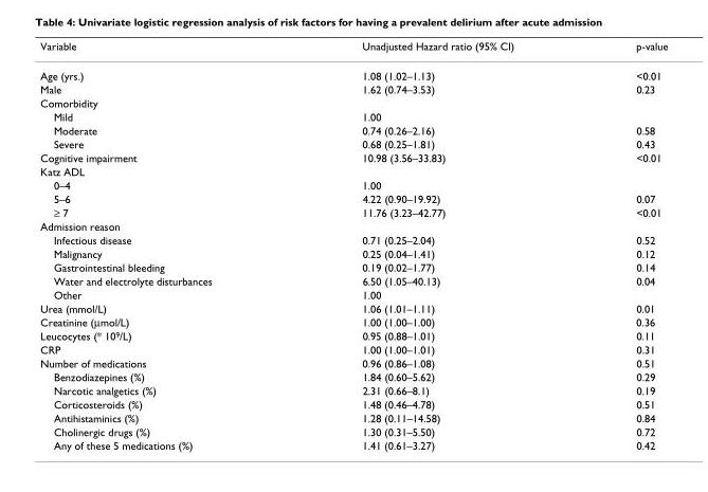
<table><thead><tr><td>Variable</td><td>Unadjusted Hazard ratio (95% CI)</td><td>p-value</td></tr></thead><tbody><tr><td>Age (yrs.)</td><td>1.08 (1.02–1.13)</td><td>&lt;0.01</td></tr><tr><td>Male</td><td>1.62 (0.74–3.53)</td><td>0.23</td></tr><tr><td colspan="3">Comorbidity</td></tr><tr><td>Mild</td><td>1.00</td><td></td></tr><tr><td>Moderate</td><td>0.74 (0.26–2.16)</td><td>0.58</td></tr><tr><td>Severe</td><td>0.68 (0.25–1.81)</td><td>0.43</td></tr><tr><td>Cognitive impairment</td><td>10.98 (3.56–33.83)</td><td>&lt;0.01</td></tr><tr><td colspan="3">Katz ADL</td></tr><tr><td>0–4</td><td>1.00</td><td></td></tr><tr><td>5–6</td><td>4.22 (0.90–19.92)</td><td>0.07</td></tr><tr><td>≥ 7</td><td>11.76 (3.23–42.77)</td><td>&lt;0.01</td></tr><tr><td colspan="3">Admission reason</td></tr><tr><td>Infectious disease</td><td>0.71 (0.25–2.04)</td><td>0.52</td></tr><tr><td>Malignancy</td><td>0.25 (0.04–1.41)</td><td>0.12</td></tr><tr><td>Gastrointestinal bleeding</td><td>0.19 (0.02–1.77)</td><td>0.14</td></tr><tr><td>Water and electrolyte disturbances</td><td>6.50 (1.05–40.13)</td><td>0.04</td></tr><tr><td>Other</td><td>1.00</td><td></td></tr><tr><td>Urea (mmol/L)</td><td>1.06 (1.01–1.11)</td><td>0.01</td></tr><tr><td>Creatinine (µmol/L)</td><td>1.00 (1.00–1.00)</td><td>0.36</td></tr><tr><td>Leucocytes (* 10<sup>9</sup>/L)</td><td>0.95 (0.88–1.01)</td><td>0.11</td></tr><tr><td>CRP</td><td>1.00 (1.00–1.01)</td><td>0.31</td></tr><tr><td>Number of medications</td><td>0.96 (0.86–1.08)</td><td>0.51</td></tr><tr><td>Benzodiazepines (%)</td><td>1.84 (0.60–5.62)</td><td>0.29</td></tr><tr><td>Narcotic analgetics (%)</td><td>2.31 (0.66–8.1)</td><td>0.19</td></tr><tr><td>Corticosteroids (%)</td><td>1.48 (0.46–4.78)</td><td>0.51</td></tr><tr><td>Antihistaminics (%)</td><td>1.28 (0.11–14.58)</td><td>0.84</td></tr><tr><td>Cholinergic drugs (%)</td><td>1.30 (0.31–5.50)</td><td>0.72</td></tr><tr><td>Any of these 5 medications (%)</td><td>1.41 (0.61–3.27)</td><td>0.42</td></tr></tbody></table>